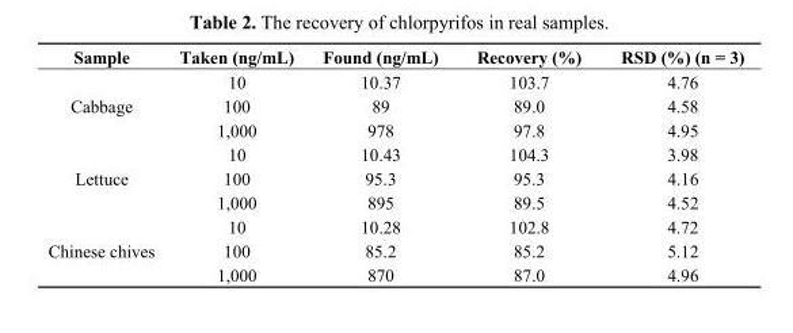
<table><thead><tr><td>Sample</td><td>Taken (ng/mL)</td><td>Found (ng/mL)</td><td>Recovery (%)</td><td>RSD (%) (n = 3)</td></tr></thead><tbody><tr><td rowspan="3">Cabbage</td><td>10</td><td>10.37</td><td>103.7</td><td>4.76</td></tr><tr><td>100</td><td>89</td><td>89.0</td><td>4.58</td></tr><tr><td>1,000</td><td>978</td><td>97.8</td><td>4.95</td></tr><tr><td rowspan="3">Lettuce</td><td>10</td><td>10.43</td><td>104.3</td><td>3.98</td></tr><tr><td>100</td><td>95.3</td><td>95.3</td><td>4.16</td></tr><tr><td>1,000</td><td>895</td><td>89.5</td><td>4.52</td></tr><tr><td rowspan="3">Chinese chives</td><td>10</td><td>10.28</td><td>102.8</td><td>4.72</td></tr><tr><td>100</td><td>85.2</td><td>85.2</td><td>5.12</td></tr><tr><td>1,000</td><td>870</td><td>87.0</td><td>4.96</td></tr></tbody></table>